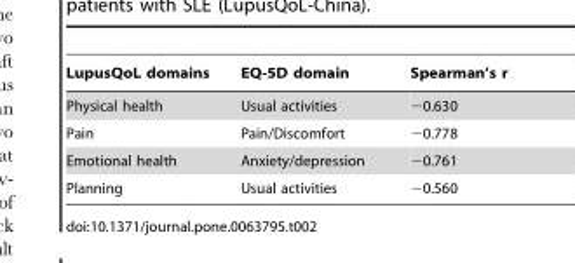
<table><thead><tr><td>LupusQoL domains</td><td>EQ-5D domain</td><td>Spearman’s r</td></tr></thead><tbody><tr><td>Physical health</td><td>Usual activities</td><td>−0.630</td></tr><tr><td>Pain</td><td>Pain/Discomfort</td><td>−0.778</td></tr><tr><td>Emotional health</td><td>Anxiety/depression</td><td>−0.761</td></tr><tr><td>Planning</td><td>Usual activities</td><td>−0.560</td></tr></tbody></table>